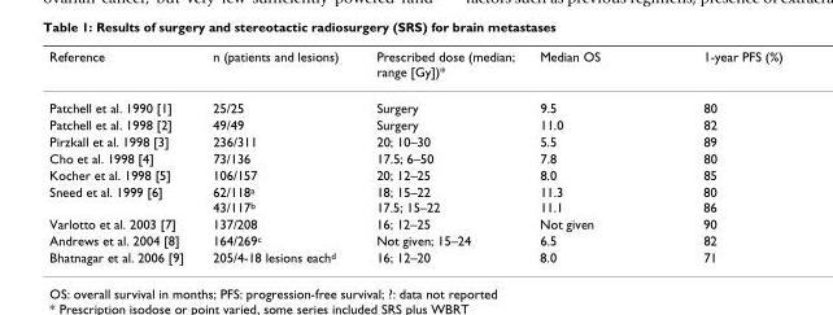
<table><thead><tr><td>Reference</td><td>n (patients and lesions)</td><td>Prescribed dose (median; range [Gy])*</td><td>Median OS</td><td>1-year PFS (%)</td></tr></thead><tbody><tr><td>Patchell et al. 1990 [1]</td><td>25/25</td><td>Surgery</td><td>9.5</td><td>80</td></tr><tr><td>Patchell et al. 1998 [2]</td><td>49/49</td><td>Surgery</td><td>11.0</td><td>82</td></tr><tr><td>Pirzkall et al. 1998 [3]</td><td>236/311</td><td>20; 10–30</td><td>5.5</td><td>89</td></tr><tr><td>Cho et al. 1998 [4]</td><td>73/136</td><td>17.5; 6–50</td><td>7.8</td><td>80</td></tr><tr><td>Kocher et al. 1998 [5]</td><td>106/157</td><td>20; 12–25</td><td>8.0</td><td>85</td></tr><tr><td>Sneed et al. 1999 [6]</td><td>62/118<sup>a</sup> 43/117<sup>b</sup></td><td>18; 15–22 17.5; 15–22</td><td>11.3 11.1</td><td>80 86</td></tr><tr><td>Varlotto et al. 2003 [7]</td><td>137/208</td><td>16; 12–25</td><td>Not given</td><td>90</td></tr><tr><td>Andrews et al. 2004 [8]</td><td>164/269<sup>c</sup></td><td>Not given; 15–24</td><td>6.5</td><td>82</td></tr><tr><td>Bhatnagar et al. 2006 [9]</td><td>205/4-18 lesions each<sup>d</sup></td><td>16; 12–20</td><td>8.0</td><td>71</td></tr></tbody></table>